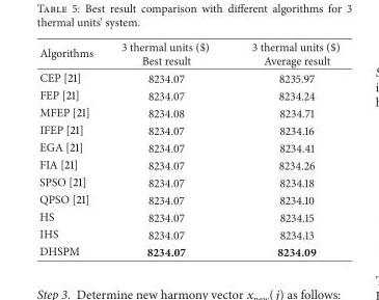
<table><thead><tr><td>Algorithms</td><td>3 thermal units ($) Best result</td><td>3 thermal units ($) Average result</td></tr></thead><tbody><tr><td>CEP [21]</td><td>8234.07</td><td>8235.97</td></tr><tr><td>FEP [21]</td><td>8234.07</td><td>8234.24</td></tr><tr><td>MFEP [21]</td><td>8234.08</td><td>8234.71</td></tr><tr><td>IFEP [21]</td><td>8234.07</td><td>8234.16</td></tr><tr><td>EGA [21]</td><td>8234.07</td><td>8234.41</td></tr><tr><td>FIA [21]</td><td>8234.07</td><td>8234.26</td></tr><tr><td>SPSO [21]</td><td>8234.07</td><td>8234.18</td></tr><tr><td>QPSO [21]</td><td>8234.07</td><td>8234.10</td></tr><tr><td>HS</td><td>8234.07</td><td>8234.15</td></tr><tr><td>IHS</td><td>8234.07</td><td>8234.13</td></tr><tr><td>DHSPM</td><td>8234.07</td><td>8234.09</td></tr></tbody></table>